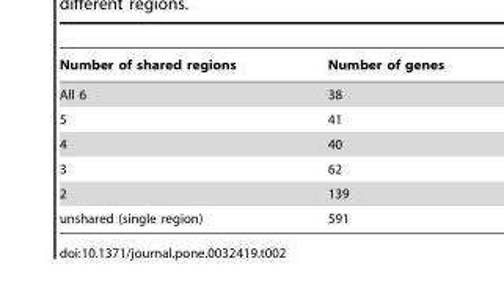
<table><thead><tr><td>Number of shared regions</td><td>Number of genes</td></tr></thead><tbody><tr><td>All 6</td><td>38</td></tr><tr><td>5</td><td>41</td></tr><tr><td>4</td><td>40</td></tr><tr><td>3</td><td>62</td></tr><tr><td>2</td><td>139</td></tr><tr><td>unshared (single region)</td><td>591</td></tr></tbody></table>